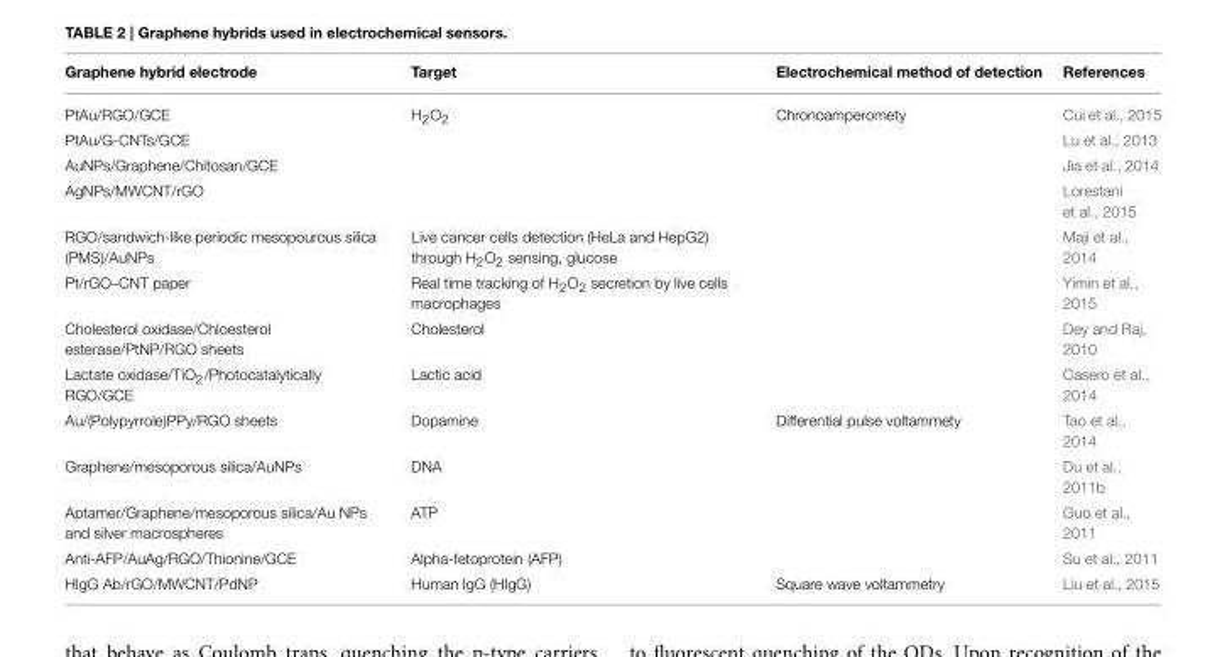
<table><thead><tr><td>Graphene hybrid electrode</td><td>Target</td><td>Electrochemical method of detection</td><td>References</td></tr></thead><tbody><tr><td>PtAu/RGO/GCE</td><td>H<sub>2</sub>O<sub>2</sub></td><td>Chronoamperomety</td><td>Cui et al., 2015</td></tr><tr><td>PtAu/G-CNTs/GCE</td><td></td><td></td><td>Lu et al., 2013</td></tr><tr><td>AuNPs/Graphene/Chitosan/GCE</td><td></td><td></td><td>Jia et al., 2014</td></tr><tr><td>AgNPs/MWCNT/rGO</td><td></td><td></td><td>Lorestani et al., 2015</td></tr><tr><td>RGO/sandwich-like periodic mesopourous silica (PMS)/AuNPs</td><td>Live cancer cells detection (HeLa and HepG2) through H<sub>2</sub>O<sub>2</sub> sensing, glucose</td><td></td><td>Maji et al., 2014</td></tr><tr><td>Pt/rGO–CNT paper</td><td>Real time tracking of H<sub>2</sub>O<sub>2</sub> secretion by live cells macrophages</td><td></td><td>Yimin et al., 2015</td></tr><tr><td>Cholesterol oxidase/Chloesterol esterase/PtNP/RGO sheets</td><td>Cholesterol</td><td></td><td>Dey and Raj, 2010</td></tr><tr><td>Lactate oxidase/TiO<sub>2</sub>/Photocatalytically RGO/GCE</td><td>Lactic acid</td><td></td><td>Casero et al., 2014</td></tr><tr><td>Au/(Polypyrrole)PPy/RGO sheets</td><td>Dopamine</td><td>Differential pulse voltammety</td><td>Tao et al., 2014</td></tr><tr><td>Graphene/mesoporous silica/AuNPs</td><td>DNA</td><td></td><td>Du et al., 2011b</td></tr><tr><td>Aptamer/Graphene/mesoporous silica/Au NPs and silver macrospheres</td><td>ATP</td><td></td><td>Guo et al., 2011</td></tr><tr><td>Anti-AFP/AuAg/RGO/Thionine/GCE</td><td>Alpha-fetoprotein (AFP)</td><td></td><td>Su et al., 2011</td></tr><tr><td>HIgG Ab/rGO/MWCNT/PdNP</td><td>Human IgG (HIgG)</td><td>Square wave voltammetry</td><td>Liu et al., 2015</td></tr></tbody></table>